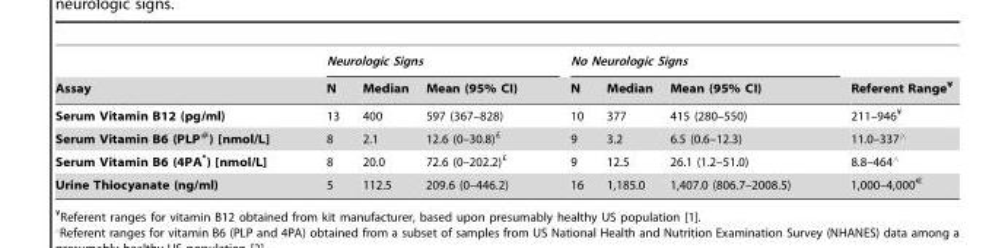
<table><thead><tr><td rowspan="2">Assay</td><td colspan="3">Neurologic Signs</td><td colspan="3">No Neurologic Signs</td><td rowspan="2">Referent Range¥</td></tr><tr><td>N</td><td>Median</td><td>Mean (95% CI)</td><td>N</td><td>Median</td><td>Mean (95% CI)</td></tr></thead><tbody><tr><td>Serum Vitamin B12 (pg/ml)</td><td>13</td><td>400</td><td>597 (367–828)</td><td>10</td><td>377</td><td>415 (280–550)</td><td>211–946¥</td></tr><tr><td>Serum Vitamin B6 (PLP#) [nmol/L]</td><td>8</td><td>2.1</td><td>12.6 (0–30.8)£</td><td>9</td><td>3.2</td><td>6.5 (0.6–12.3)</td><td>11.0–337‘</td></tr><tr><td>Serum Vitamin B6 (4PA*) [nmol/L]</td><td>8</td><td>20.0</td><td>72.6 (0–202.2)£</td><td>9</td><td>12.5</td><td>26.1 (1.2–51.0)</td><td>8.8–464‘</td></tr><tr><td>Urine Thiocyanate (ng/ml)</td><td>5</td><td>112.5</td><td>209.6 (0–446.2)</td><td>16</td><td>1,185.0</td><td>1,407.0 (806.7–2008.5)</td><td>1,000–4,000€</td></tr></tbody></table>